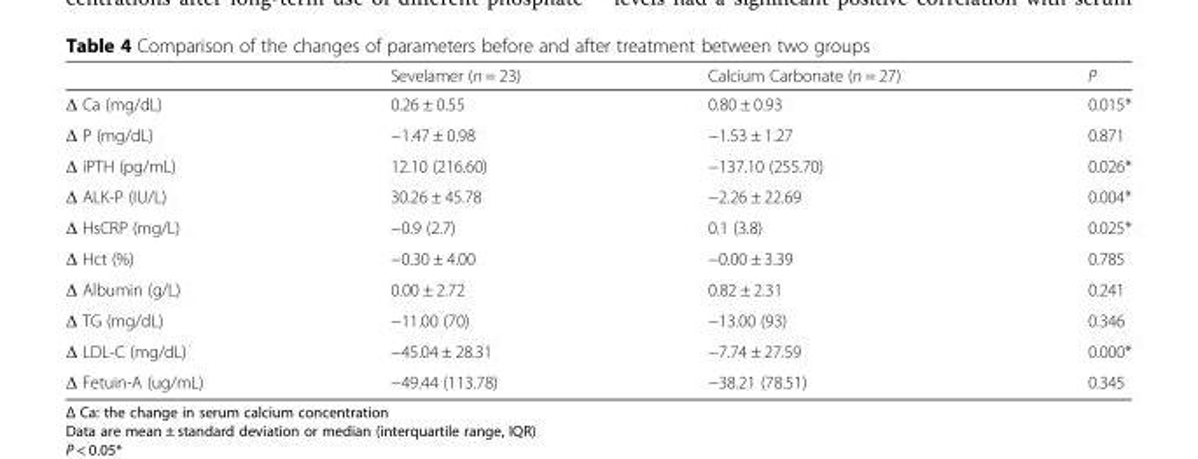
<table><thead><tr><td></td><td>Sevelamer (n = 23)</td><td>Calcium Carbonate (n = 27)</td><td>P</td></tr></thead><tbody><tr><td>Δ Ca (mg/dL)</td><td>0.26 ± 0.55</td><td>0.80 ± 0.93</td><td>0.015*</td></tr><tr><td>Δ P (mg/dL)</td><td>−1.47 ± 0.98</td><td>−1.53 ± 1.27</td><td>0.871</td></tr><tr><td>Δ iPTH (pg/mL)</td><td>12.10 (216.60)</td><td>−137.10 (255.70)</td><td>0.026*</td></tr><tr><td>Δ ALK-P (IU/L)</td><td>30.26 ± 45.78</td><td>−2.26 ± 22.69</td><td>0.004*</td></tr><tr><td>Δ HsCRP (mg/L)</td><td>−0.9 (2.7)</td><td>0.1 (3.8)</td><td>0.025*</td></tr><tr><td>Δ Hct (%)</td><td>−0.30 ± 4.00</td><td>−0.00 ± 3.39</td><td>0.785</td></tr><tr><td>Δ Albumin (g/L)</td><td>0.00 ± 2.72</td><td>0.82 ± 2.31</td><td>0.241</td></tr><tr><td>Δ TG (mg/dL)</td><td>−11.00 (70)</td><td>−13.00 (93)</td><td>0.346</td></tr><tr><td>Δ LDL-C (mg/dL)</td><td>−45.04 ± 28.31</td><td>−7.74 ± 27.59</td><td>0.000*</td></tr><tr><td>Δ Fetuin-A (ug/mL)</td><td>−49.44 (113.78)</td><td>−38.21 (78.51)</td><td>0.345</td></tr></tbody></table>